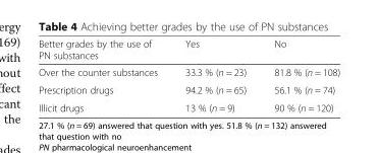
<table><thead><tr><td>Better grades by the use of PN substances</td><td>Yes</td><td>No</td></tr></thead><tbody><tr><td>Over the counter substances</td><td>33.3 % (n = 23)</td><td>81.8 % (n = 108)</td></tr><tr><td>Prescription drugs</td><td>94.2 % (n = 65)</td><td>56.1 % (n = 74)</td></tr><tr><td>Illicit drugs</td><td>13 % (n = 9)</td><td>90 % (n = 120)</td></tr></tbody></table>